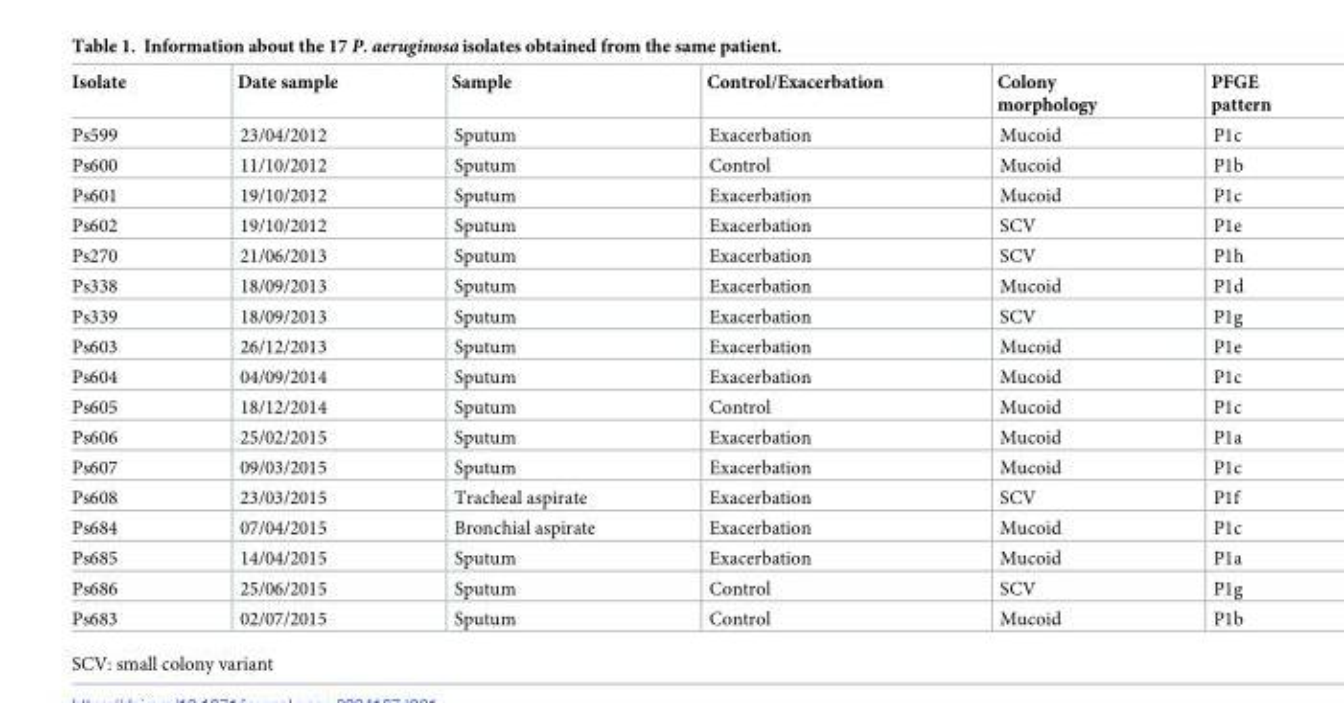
<table><thead><tr><td>Isolate</td><td>Date sample</td><td>Sample</td><td>Control/Exacerbation</td><td>Colony morphology</td><td>PFGE pattern</td></tr></thead><tbody><tr><td>Ps599</td><td>23/04/2012</td><td>Sputum</td><td>Exacerbation</td><td>Mucoid</td><td>P1c</td></tr><tr><td>Ps600</td><td>11/10/2012</td><td>Sputum</td><td>Control</td><td>Mucoid</td><td>P1b</td></tr><tr><td>Ps601</td><td>19/10/2012</td><td>Sputum</td><td>Exacerbation</td><td>Mucoid</td><td>P1c</td></tr><tr><td>Ps602</td><td>19/10/2012</td><td>Sputum</td><td>Exacerbation</td><td>SCV</td><td>P1e</td></tr><tr><td>Ps270</td><td>21/06/2013</td><td>Sputum</td><td>Exacerbation</td><td>SCV</td><td>P1h</td></tr><tr><td>Ps338</td><td>18/09/2013</td><td>Sputum</td><td>Exacerbation</td><td>Mucoid</td><td>P1d</td></tr><tr><td>Ps339</td><td>18/09/2013</td><td>Sputum</td><td>Exacerbation</td><td>SCV</td><td>P1g</td></tr><tr><td>Ps603</td><td>26/12/2013</td><td>Sputum</td><td>Exacerbation</td><td>Mucoid</td><td>P1e</td></tr><tr><td>Ps604</td><td>04/09/2014</td><td>Sputum</td><td>Exacerbation</td><td>Mucoid</td><td>P1c</td></tr><tr><td>Ps605</td><td>18/12/2014</td><td>Sputum</td><td>Control</td><td>Mucoid</td><td>P1c</td></tr><tr><td>Ps606</td><td>25/02/2015</td><td>Sputum</td><td>Exacerbation</td><td>Mucoid</td><td>P1a</td></tr><tr><td>Ps607</td><td>09/03/2015</td><td>Sputum</td><td>Exacerbation</td><td>Mucoid</td><td>P1c</td></tr><tr><td>Ps608</td><td>23/03/2015</td><td>Tracheal aspirate</td><td>Exacerbation</td><td>SCV</td><td>P1f</td></tr><tr><td>Ps684</td><td>07/04/2015</td><td>Bronchial aspirate</td><td>Exacerbation</td><td>Mucoid</td><td>P1c</td></tr><tr><td>Ps685</td><td>14/04/2015</td><td>Sputum</td><td>Exacerbation</td><td>Mucoid</td><td>P1a</td></tr><tr><td>Ps686</td><td>25/06/2015</td><td>Sputum</td><td>Control</td><td>SCV</td><td>P1g</td></tr><tr><td>Ps683</td><td>02/07/2015</td><td>Sputum</td><td>Control</td><td>Mucoid</td><td>P1b</td></tr></tbody></table>